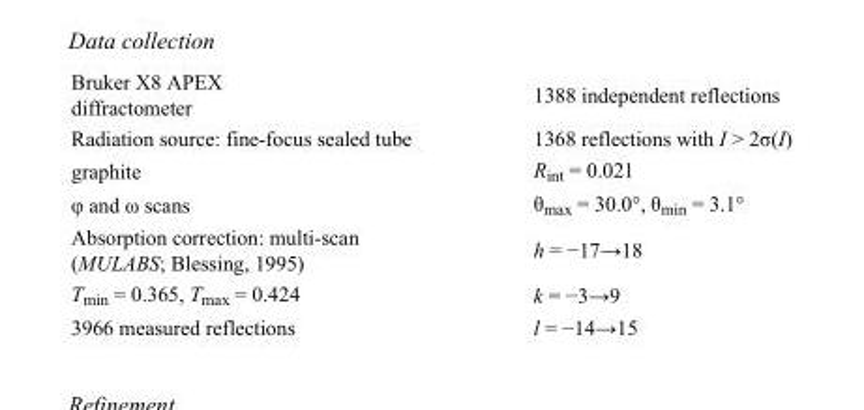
<table><tbody><tr><td>Bruker X8 APEX diffractometer</td><td>1388 independent reflections</td></tr><tr><td>Radiation source: fine-focus sealed tube</td><td>1368 reflections with I &gt; 2σ(I)</td></tr><tr><td>graphite</td><td>R<sub>int</sub> = 0.021</td></tr><tr><td>φ and ω scans</td><td>θ<sub>max</sub> = 30.0°, θ<sub>min</sub> = 3.1°</td></tr><tr><td>Absorption correction: multi-scan (MULABS; Blessing, 1995)</td><td>h = −17→18</td></tr><tr><td>T<sub>min</sub> = 0.365, T<sub>max</sub> = 0.424</td><td>k = −3→9</td></tr><tr><td>3966 measured reflections</td><td>l = −14→15</td></tr></tbody></table>